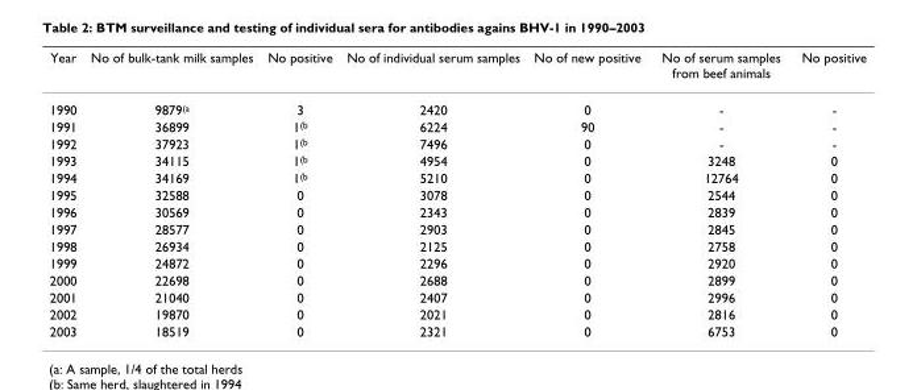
<table><thead><tr><td>Year</td><td>No of bulk-tank milk samples</td><td>No positive</td><td>No of individual serum samples</td><td>No of new positive</td><td>No of serum samples from beef animals</td><td>No positive</td></tr></thead><tbody><tr><td>1990</td><td>9879<sup>(a</sup></td><td>3</td><td>2420</td><td>0</td><td>-</td><td>-</td></tr><tr><td>1991</td><td>36899</td><td>1<sup>(b</sup></td><td>6224</td><td>90</td><td>-</td><td>-</td></tr><tr><td>1992</td><td>37923</td><td>1<sup>(b</sup></td><td>7496</td><td>0</td><td>-</td><td>-</td></tr><tr><td>1993</td><td>34115</td><td>1<sup>(b</sup></td><td>4954</td><td>0</td><td>3248</td><td>0</td></tr><tr><td>1994</td><td>34169</td><td>1<sup>(b</sup></td><td>5210</td><td>0</td><td>12764</td><td>0</td></tr><tr><td>1995</td><td>32588</td><td>0</td><td>3078</td><td>0</td><td>2544</td><td>0</td></tr><tr><td>1996</td><td>30569</td><td>0</td><td>2343</td><td>0</td><td>2839</td><td>0</td></tr><tr><td>1997</td><td>28577</td><td>0</td><td>2903</td><td>0</td><td>2845</td><td>0</td></tr><tr><td>1998</td><td>26934</td><td>0</td><td>2125</td><td>0</td><td>2758</td><td>0</td></tr><tr><td>1999</td><td>24872</td><td>0</td><td>2296</td><td>0</td><td>2920</td><td>0</td></tr><tr><td>2000</td><td>22698</td><td>0</td><td>2688</td><td>0</td><td>2899</td><td>0</td></tr><tr><td>2001</td><td>21040</td><td>0</td><td>2407</td><td>0</td><td>2996</td><td>0</td></tr><tr><td>2002</td><td>19870</td><td>0</td><td>2021</td><td>0</td><td>2816</td><td>0</td></tr><tr><td>2003</td><td>18519</td><td>0</td><td>2321</td><td>0</td><td>6753</td><td>0</td></tr></tbody></table>